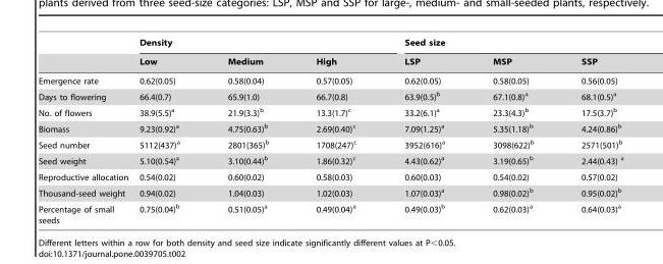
<table><thead><tr><td rowspan="2"></td><td colspan="3">Density</td><td colspan="3">Seed size</td></tr><tr><td>Low</td><td>Medium</td><td>High</td><td>LSP</td><td>MSP</td><td>SSP</td></tr></thead><tbody><tr><td>Emergence rate</td><td>0.62(0.05)</td><td>0.58(0.04)</td><td>0.57(0.05)</td><td>0.62(0.05)</td><td>0.58(0.05)</td><td>0.56(0.05)</td></tr><tr><td>Days to flowering</td><td>66.4(0.7)</td><td>65.9(1.0)</td><td>66.7(0.8)</td><td>63.9(0.5)<sup>b</sup></td><td>67.1(0.8)<sup>a</sup></td><td>68.1(0.5)<sup>a</sup></td></tr><tr><td>No. of flowers</td><td>38.9(5.5)<sup>a</sup></td><td>21.9(3.3)<sup>b</sup></td><td>13.3(1.7)<sup>c</sup></td><td>33.2(6.1)<sup>a</sup></td><td>23.3(4.3)<sup>b</sup></td><td>17.5(3.7)<sup>b</sup></td></tr><tr><td>Biomass</td><td>9.23(0.92)<sup>a</sup></td><td>4.75(0.63)<sup>b</sup></td><td>2.69(0.40)<sup>c</sup></td><td>7.09(1.25)<sup>a</sup></td><td>5.35(1.18)<sup>b</sup></td><td>4.24(0.86)<sup>b</sup></td></tr><tr><td>Seed number</td><td>5112(437)<sup>a</sup></td><td>2801(365)<sup>b</sup></td><td>1708(247)<sup>c</sup></td><td>3952(616)<sup>a</sup></td><td>3098(622)<sup>b</sup></td><td>2571(501)<sup>b</sup></td></tr><tr><td>Seed weight</td><td>5.10(0.54)<sup>a</sup></td><td>3.10(0.44)<sup>b</sup></td><td>1.86(0.32)<sup>c</sup></td><td>4.43(0.62)<sup>a</sup></td><td>3.19(0.65)<sup>b</sup></td><td>2.44(0.43) <sup>a</sup></td></tr><tr><td>Reproductive allocation</td><td>0.54(0.02)</td><td>0.60(0.02)</td><td>0.58(0.03)</td><td>0.60(0.03)</td><td>0.54(0.02)</td><td>0.57(0.02)</td></tr><tr><td>Thousand-seed weight</td><td>0.94(0.02)</td><td>1.04(0.03)</td><td>1.02(0.03)</td><td>1.07(0.03)<sup>a</sup></td><td>0.98(0.02)<sup>b</sup></td><td>0.95(0.02)<sup>b</sup></td></tr><tr><td>Percentage of small seeds</td><td>0.75(0.04)<sup>b</sup></td><td>0.51(0.05)<sup>a</sup></td><td>0.49(0.04)<sup>a</sup></td><td>0.49(0.03)<sup>b</sup></td><td>0.62(0.03)<sup>a</sup></td><td>0.64(0.03)<sup>a</sup></td></tr></tbody></table>